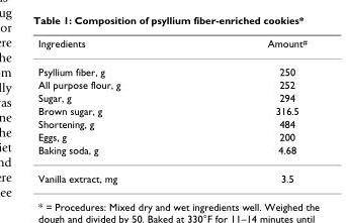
<table><thead><tr><td>Ingredients</td><td>Amount<sup>#</sup></td></tr></thead><tbody><tr><td>Psyllium fiber, g</td><td>250</td></tr><tr><td>All purpose flour, g</td><td>252</td></tr><tr><td>Sugar, g</td><td>294</td></tr><tr><td>Brown sugar, g</td><td>316.5</td></tr><tr><td>Shortening, g</td><td>484</td></tr><tr><td>Eggs, g</td><td>200</td></tr><tr><td>Baking soda, g</td><td>4.68</td></tr><tr><td>Vanilla extract, mg</td><td>3.5</td></tr></tbody></table>